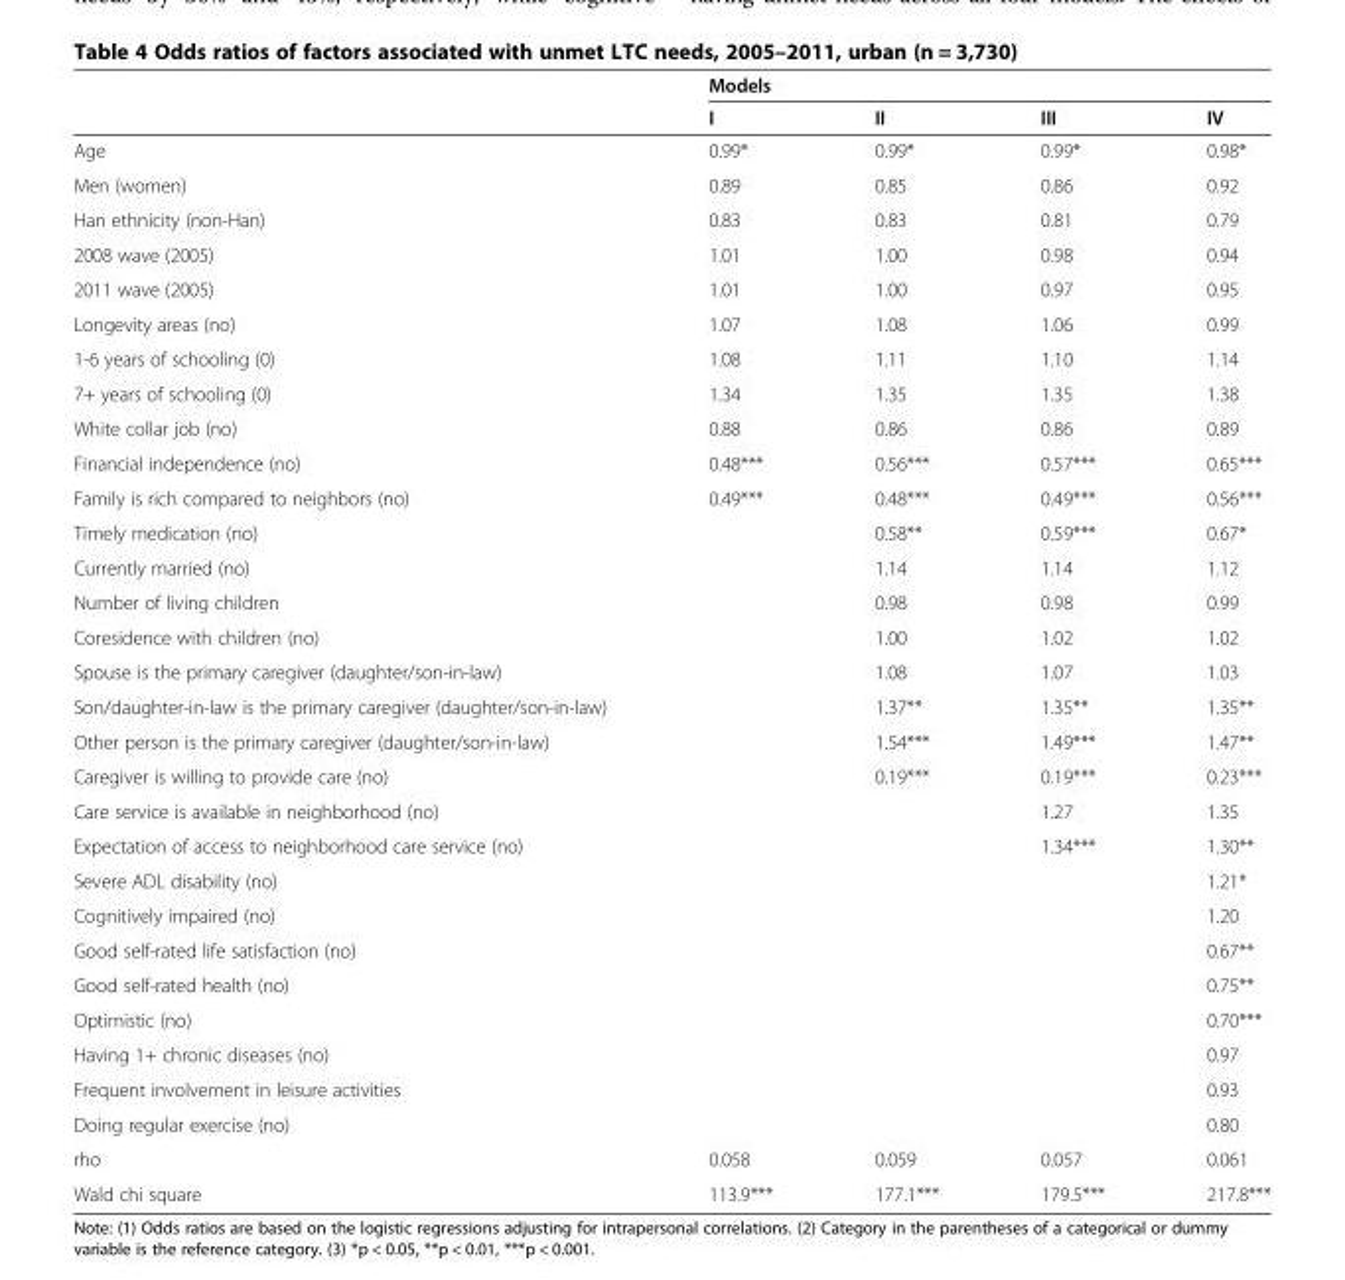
<table><thead><tr><td rowspan="2"></td><td colspan="4">Models</td></tr><tr><td>I</td><td>II</td><td>III</td><td>IV</td></tr></thead><tbody><tr><td>Age</td><td>0.99*</td><td>0.99*</td><td>0.99*</td><td>0.98*</td></tr><tr><td>Men (women)</td><td>0.89</td><td>0.85</td><td>0.86</td><td>0.92</td></tr><tr><td>Han ethnicity (non-Han)</td><td>0.83</td><td>0.83</td><td>0.81</td><td>0.79</td></tr><tr><td>2008 wave (2005)</td><td>1.01</td><td>1.00</td><td>0.98</td><td>0.94</td></tr><tr><td>2011 wave (2005)</td><td>1.01</td><td>1.00</td><td>0.97</td><td>0.95</td></tr><tr><td>Longevity areas (no)</td><td>1.07</td><td>1.08</td><td>1.06</td><td>0.99</td></tr><tr><td>1-6 years of schooling (0)</td><td>1.08</td><td>1.11</td><td>1.10</td><td>1.14</td></tr><tr><td>7+ years of schooling (0)</td><td>1.34</td><td>1.35</td><td>1.35</td><td>1.38</td></tr><tr><td>White collar job (no)</td><td>0.88</td><td>0.86</td><td>0.86</td><td>0.89</td></tr><tr><td>Financial independence (no)</td><td>0.48***</td><td>0.56***</td><td>0.57***</td><td>0.65***</td></tr><tr><td>Family is rich compared to neighbors (no)</td><td>0.49***</td><td>0.48***</td><td>0.49***</td><td>0.56***</td></tr><tr><td>Timely medication (no)</td><td></td><td>0.58**</td><td>0.59***</td><td>0.67*</td></tr><tr><td>Currently married (no)</td><td></td><td>1.14</td><td>1.14</td><td>1.12</td></tr><tr><td>Number of living children</td><td></td><td>0.98</td><td>0.98</td><td>0.99</td></tr><tr><td>Coresidence with children (no)</td><td></td><td>1.00</td><td>1.02</td><td>1.02</td></tr><tr><td>Spouse is the primary caregiver (daughter/son-in-law)</td><td></td><td>1.08</td><td>1.07</td><td>1.03</td></tr><tr><td>Son/daughter-in-law is the primary caregiver (daughter/son-in-law)</td><td></td><td>1.37**</td><td>1.35**</td><td>1.35**</td></tr><tr><td>Other person is the primary caregiver (daughter/son-in-law)</td><td></td><td>1.54***</td><td>1.49***</td><td>1.47**</td></tr><tr><td>Caregiver is willing to provide care (no)</td><td></td><td>0.19***</td><td>0.19***</td><td>0.23***</td></tr><tr><td>Care service is available in neighborhood (no)</td><td></td><td></td><td>1.27</td><td>1.35</td></tr><tr><td>Expectation of access to neighborhood care service (no)</td><td></td><td></td><td>1.34***</td><td>1.30**</td></tr><tr><td>Severe ADL disability (no)</td><td></td><td></td><td></td><td>1.21*</td></tr><tr><td>Cognitively impaired (no)</td><td></td><td></td><td></td><td>1.20</td></tr><tr><td>Good self-rated life satisfaction (no)</td><td></td><td></td><td></td><td>0.67**</td></tr><tr><td>Good self-rated health (no)</td><td></td><td></td><td></td><td>0.75**</td></tr><tr><td>Optimistic (no)</td><td></td><td></td><td></td><td>0.70***</td></tr><tr><td>Having 1+ chronic diseases (no)</td><td></td><td></td><td></td><td>0.97</td></tr><tr><td>Frequent involvement in leisure activities</td><td></td><td></td><td></td><td>0.93</td></tr><tr><td>Doing regular exercise (no)</td><td></td><td></td><td></td><td>0.80</td></tr><tr><td>rho</td><td>0.058</td><td>0.059</td><td>0.057</td><td>0.061</td></tr><tr><td>Wald chi square</td><td>113.9***</td><td>177.1***</td><td>179.5***</td><td>217.8***</td></tr></tbody></table>